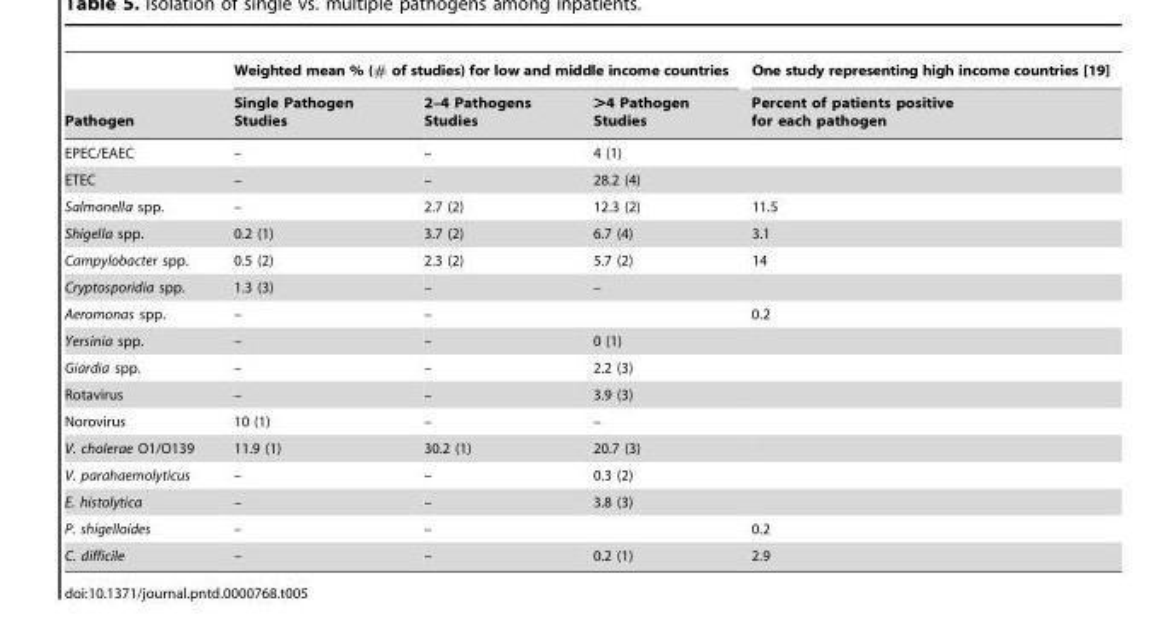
<table><thead><tr><td rowspan="2">Pathogen</td><td colspan="3">Weighted mean % (# of studies) for low and middle income countries</td><td rowspan="2">One study representing high income countries [19] Percent of patients positive for each pathogen</td></tr><tr><td>Single Pathogen Studies</td><td>2–4 Pathogens Studies</td><td>&gt;4 Pathogen Studies</td></tr></thead><tbody><tr><td>EPEC/EAEC</td><td>–</td><td>–</td><td>4 (1)</td><td></td></tr><tr><td>ETEC</td><td>–</td><td>–</td><td>28.2 (4)</td><td></td></tr><tr><td>Salmonella spp.</td><td>–</td><td>2.7 (2)</td><td>12.3 (2)</td><td>11.5</td></tr><tr><td>Shigella spp.</td><td>0.2 (1)</td><td>3.7 (2)</td><td>6.7 (4)</td><td>3.1</td></tr><tr><td>Campylobacter spp.</td><td>0.5 (2)</td><td>2.3 (2)</td><td>5.7 (2)</td><td>14</td></tr><tr><td>Cryptosporidia spp.</td><td>1.3 (3)</td><td>–</td><td>–</td><td></td></tr><tr><td>Aeromonas spp.</td><td>–</td><td>–</td><td></td><td>0.2</td></tr><tr><td>Yersinia spp.</td><td>–</td><td>–</td><td>0 (1)</td><td></td></tr><tr><td>Giardia spp.</td><td>–</td><td>–</td><td>2.2 (3)</td><td></td></tr><tr><td>Rotavirus</td><td>–</td><td>–</td><td>3.9 (3)</td><td></td></tr><tr><td>Norovirus</td><td>10 (1)</td><td>–</td><td>–</td><td></td></tr><tr><td>V. cholerae O1/O139</td><td>11.9 (1)</td><td>30.2 (1)</td><td>20.7 (3)</td><td></td></tr><tr><td>V. parahaemolyticus</td><td>–</td><td>–</td><td>0.3 (2)</td><td></td></tr><tr><td>E. histolytica</td><td>–</td><td>–</td><td>3.8 (3)</td><td></td></tr><tr><td>P. shigelloides</td><td>–</td><td>–</td><td></td><td>0.2</td></tr><tr><td>C. difficile</td><td>–</td><td>–</td><td>0.2 (1)</td><td>2.9</td></tr></tbody></table>